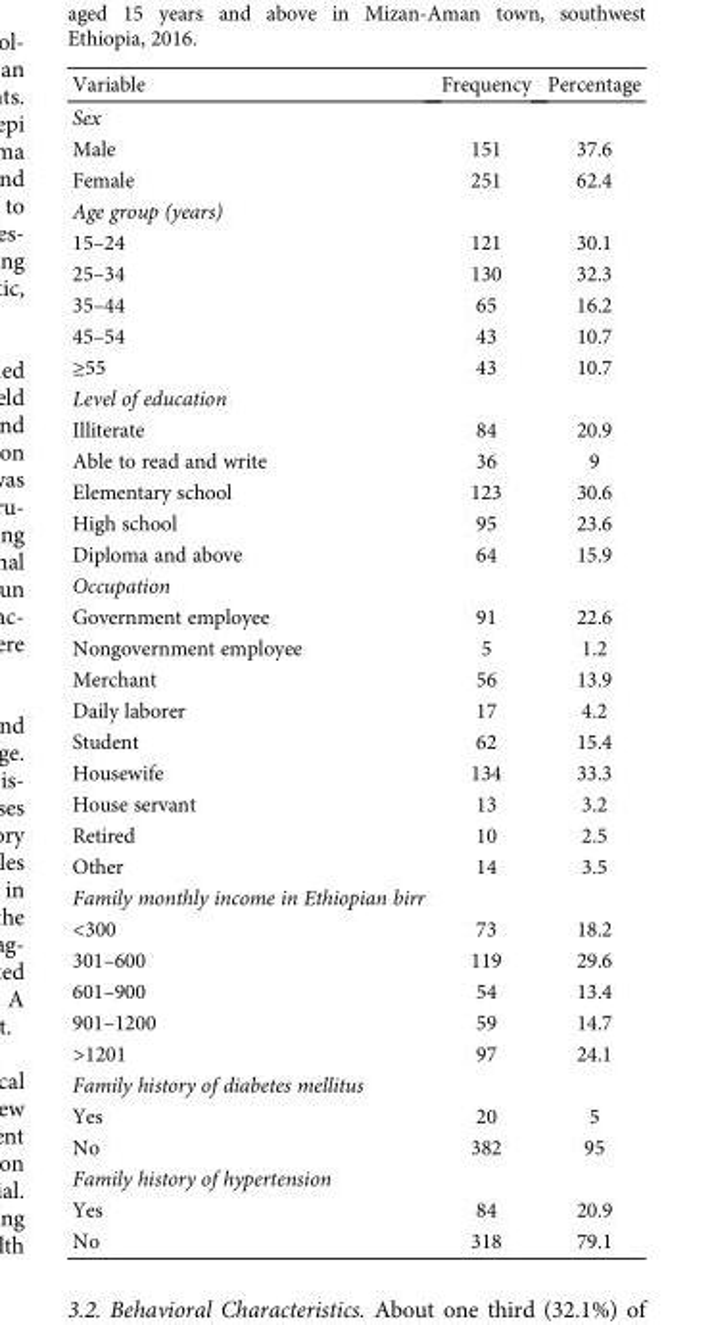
<table><thead><tr><td>Variable</td><td>Frequency</td><td>Percentage</td></tr></thead><tbody><tr><td colspan="3">Sex</td></tr><tr><td>Male</td><td>151</td><td>37.6</td></tr><tr><td>Female</td><td>251</td><td>62.4</td></tr><tr><td colspan="3">Age group (years)</td></tr><tr><td>15–24</td><td>121</td><td>30.1</td></tr><tr><td>25–34</td><td>130</td><td>32.3</td></tr><tr><td>35–44</td><td>65</td><td>16.2</td></tr><tr><td>45–54</td><td>43</td><td>10.7</td></tr><tr><td>≥55</td><td>43</td><td>10.7</td></tr><tr><td colspan="3">Level of education</td></tr><tr><td>Illiterate</td><td>84</td><td>20.9</td></tr><tr><td>Able to read and write</td><td>36</td><td>9</td></tr><tr><td>Elementary school</td><td>123</td><td>30.6</td></tr><tr><td>High school</td><td>95</td><td>23.6</td></tr><tr><td>Diploma and above</td><td>64</td><td>15.9</td></tr><tr><td colspan="3">Occupation</td></tr><tr><td>Government employee</td><td>91</td><td>22.6</td></tr><tr><td>Nongovernment employee</td><td>5</td><td>1.2</td></tr><tr><td>Merchant</td><td>56</td><td>13.9</td></tr><tr><td>Daily laborer</td><td>17</td><td>4.2</td></tr><tr><td>Student</td><td>62</td><td>15.4</td></tr><tr><td>Housewife</td><td>134</td><td>33.3</td></tr><tr><td>House servant</td><td>13</td><td>3.2</td></tr><tr><td>Retired</td><td>10</td><td>2.5</td></tr><tr><td>Other</td><td>14</td><td>3.5</td></tr><tr><td colspan="3">Family monthly income in Ethiopian birr</td></tr><tr><td>&lt;300</td><td>73</td><td>18.2</td></tr><tr><td>301–600</td><td>119</td><td>29.6</td></tr><tr><td>601–900</td><td>54</td><td>13.4</td></tr><tr><td>901–1200</td><td>59</td><td>14.7</td></tr><tr><td>&gt;1201</td><td>97</td><td>24.1</td></tr><tr><td colspan="3">Family history of diabetes mellitus</td></tr><tr><td>Yes</td><td>20</td><td>5</td></tr><tr><td>No</td><td>382</td><td>95</td></tr><tr><td colspan="3">Family history of hypertension</td></tr><tr><td>Yes</td><td>84</td><td>20.9</td></tr><tr><td>No</td><td>318</td><td>79.1</td></tr></tbody></table>